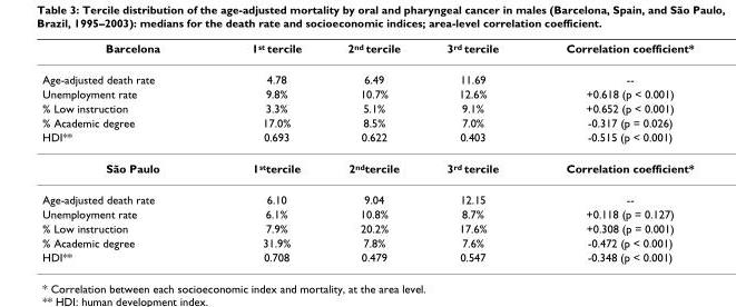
<table><thead><tr><td>Barcelona</td><td>1<sup>st</sup> tercile</td><td>2<sup>nd</sup> tercile</td><td>3<sup>rd</sup> tercile</td><td>Correlation coefficient*</td></tr></thead><tbody><tr><td>Age-adjusted death rate</td><td>4.78</td><td>6.49</td><td>11.69</td><td>--</td></tr><tr><td>Unemployment rate</td><td>9.8%</td><td>10.7%</td><td>12.6%</td><td>+0.618 (p &lt; 0.001)</td></tr><tr><td>% Low instruction</td><td>3.3%</td><td>5.1%</td><td>9.1%</td><td>+0.652 (p &lt; 0.001)</td></tr><tr><td>% Academic degree</td><td>17.0%</td><td>8.5%</td><td>7.0%</td><td>-0.317 (p = 0.026)</td></tr><tr><td>HDI**</td><td>0.693</td><td>0.622</td><td>0.403</td><td>-0.515 (p &lt; 0.001)</td></tr><tr><td>São Paulo</td><td>1<sup>st</sup>tercile</td><td>2<sup>nd</sup>tercile</td><td>3<sup>rd</sup> tercile</td><td>Correlation coefficient*</td></tr><tr><td>Age-adjusted death rate</td><td>6.10</td><td>9.04</td><td>12.15</td><td>--</td></tr><tr><td>Unemployment rate</td><td>6.1%</td><td>10.8%</td><td>8.7%</td><td>+0.118 (p = 0.127)</td></tr><tr><td>% Low instruction</td><td>7.9%</td><td>20.2%</td><td>17.6%</td><td>+0.308 (p = 0.001)</td></tr><tr><td>% Academic degree</td><td>31.9%</td><td>7.8%</td><td>7.6%</td><td>-0.472 (p &lt; 0.001)</td></tr><tr><td>HDI**</td><td>0.708</td><td>0.479</td><td>0.547</td><td>-0.348 (p &lt; 0.001)</td></tr></tbody></table>